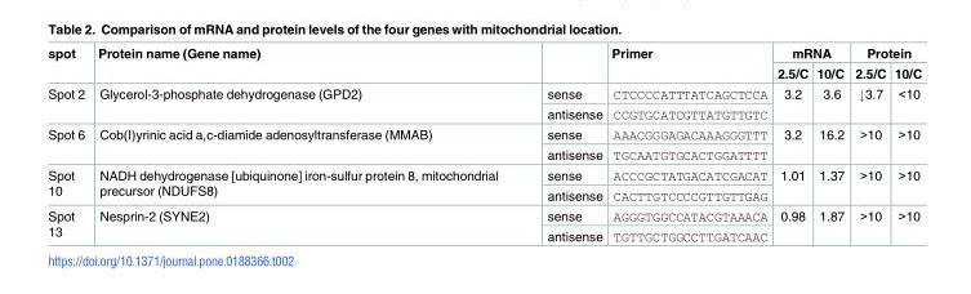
<table><thead><tr><td rowspan="2">spot</td><td rowspan="2">Protein name (Gene name)</td><td rowspan="2"></td><td rowspan="2">Primer</td><td colspan="2">mRNA</td><td colspan="2">Protein</td></tr><tr><td>2.5/C</td><td>10/C</td><td>2.5/C</td><td>10/C</td></tr></thead><tbody><tr><td rowspan="2">Spot 2</td><td rowspan="2">Glycerol-3-phosphate dehydrogenase (GPD2)</td><td>sense</td><td>CTCCCCATTTATCAGCTCCA</td><td rowspan="2">3.2</td><td rowspan="2">3.6</td><td rowspan="2">↓3.7</td><td rowspan="2">&lt;10</td></tr><tr><td>antisense</td><td>CCGTGCATCGTTATGTTGTC</td></tr><tr><td rowspan="2">Spot 6</td><td rowspan="2">Cob(I)yrinic acid a,c-diamide adenosyltransferase (MMAB)</td><td>sense</td><td>AAACGGGAGACAAAGGGTTT</td><td rowspan="2">3.2</td><td rowspan="2">16.2</td><td rowspan="2">&gt;10</td><td rowspan="2">&gt;10</td></tr><tr><td>antisense</td><td>TGCAATGTGCACTGGATTTT</td></tr><tr><td rowspan="2">Spot 10</td><td rowspan="2">NADH dehydrogenase [ubiquinone] iron-sulfur protein 8, mitochondrial precursor (NDUFS8)</td><td>sense</td><td>ACCCGCTATGACATCGACAT</td><td rowspan="2">1.01</td><td rowspan="2">1.37</td><td rowspan="2">&gt;10</td><td rowspan="2">&gt;10</td></tr><tr><td>antisense</td><td>CACTTGTCCCCGTTGTTGAG</td></tr><tr><td rowspan="2">Spot 13</td><td rowspan="2">Nesprin-2 (SYNE2)</td><td>sense</td><td>AGGGTGGCCATACGTAAACA</td><td rowspan="2">0.98</td><td rowspan="2">1.87</td><td rowspan="2">&gt;10</td><td rowspan="2">&gt;10</td></tr><tr><td>antisense</td><td>TGTTGCTGGCCTTGATCAAC</td></tr></tbody></table>